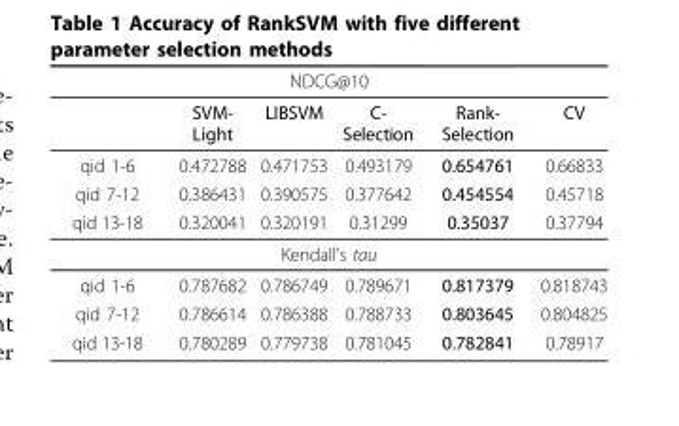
<table><thead><tr><td colspan="6">NDCG@10</td></tr><tr><td></td><td>SVM- Light</td><td>LIBSVM</td><td>C- Selection</td><td>Rank- Selection</td><td>CV</td></tr></thead><tbody><tr><td>qid 1-6</td><td>0.472788</td><td>0.471753</td><td>0.493179</td><td>0.654761</td><td>0.66833</td></tr><tr><td>qid 7-12</td><td>0.386431</td><td>0.390575</td><td>0.377642</td><td>0.454554</td><td>0.45718</td></tr><tr><td>qid 13-18</td><td>0.320041</td><td>0.320191</td><td>0.31299</td><td>0.35037</td><td>0.37794</td></tr><tr><td colspan="6">Kendall’s tau</td></tr><tr><td>qid 1-6</td><td>0.787682</td><td>0.786749</td><td>0.789671</td><td>0.817379</td><td>0.818743</td></tr><tr><td>qid 7-12</td><td>0.786614</td><td>0.786388</td><td>0.788733</td><td>0.803645</td><td>0.804825</td></tr><tr><td>qid 13-18</td><td>0.780289</td><td>0.779738</td><td>0.781045</td><td>0.782841</td><td>0.78917</td></tr></tbody></table>